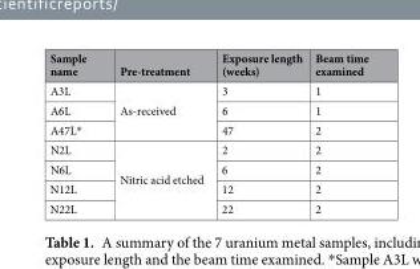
<table><thead><tr><td>Sample name</td><td>Pre-treatment</td><td>Exposure length (weeks)</td><td>Beam time examined</td></tr></thead><tbody><tr><td>A3L</td><td rowspan="3">As-received</td><td>3</td><td>1</td></tr><tr><td>A6L</td><td>6</td><td>1</td></tr><tr><td>A47L*</td><td>47</td><td>2</td></tr><tr><td>N2L</td><td rowspan="4">Nitric acid etched</td><td>2</td><td>2</td></tr><tr><td>N6L</td><td>6</td><td>2</td></tr><tr><td>N12L</td><td>12</td><td>2</td></tr><tr><td>N22L</td><td>22</td><td>2</td></tr></tbody></table>